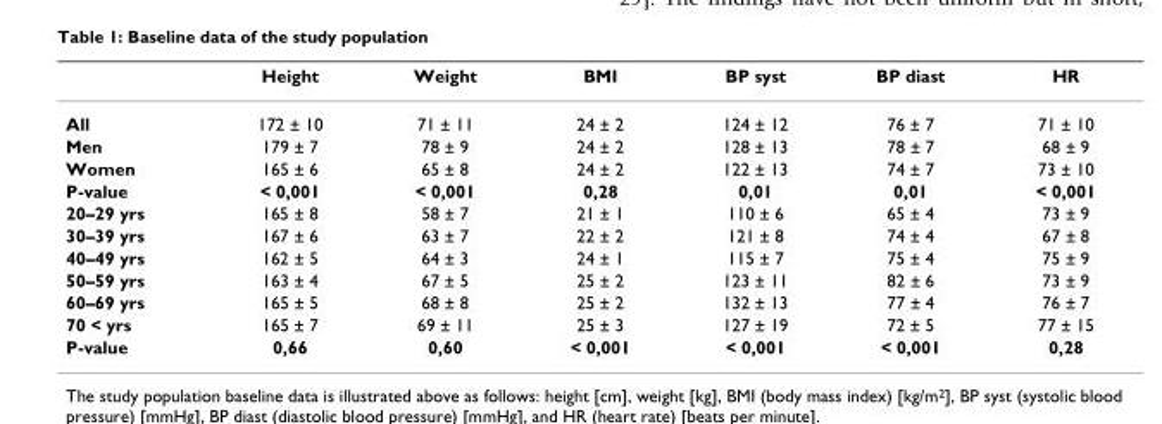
<table><thead><tr><td></td><td>Height</td><td>Weight</td><td>BMI</td><td>BP syst</td><td>BP diast</td><td>HR</td></tr></thead><tbody><tr><td>All</td><td>172 ± 10</td><td>71 ± 11</td><td>24 ± 2</td><td>124 ± 12</td><td>76 ± 7</td><td>71 ± 10</td></tr><tr><td>Men</td><td>179 ± 7</td><td>78 ± 9</td><td>24 ± 2</td><td>128 ± 13</td><td>78 ± 7</td><td>68 ± 9</td></tr><tr><td>Women</td><td>165 ± 6</td><td>65 ± 8</td><td>24 ± 2</td><td>122 ± 13</td><td>74 ± 7</td><td>73 ± 10</td></tr><tr><td>P-value</td><td>&lt; 0,001</td><td>&lt; 0,001</td><td>0,28</td><td>0,01</td><td>0,01</td><td>&lt; 0,001</td></tr><tr><td>20–29 yrs</td><td>165 ± 8</td><td>58 ± 7</td><td>21 ± 1</td><td>110 ± 6</td><td>65 ± 4</td><td>73 ± 9</td></tr><tr><td>30–39 yrs</td><td>167 ± 6</td><td>63 ± 7</td><td>22 ± 2</td><td>121 ± 8</td><td>74 ± 4</td><td>67 ± 8</td></tr><tr><td>40–49 yrs</td><td>162 ± 5</td><td>64 ± 3</td><td>24 ± 1</td><td>115 ± 7</td><td>75 ± 4</td><td>75 ± 9</td></tr><tr><td>50–59 yrs</td><td>163 ± 4</td><td>67 ± 5</td><td>25 ± 2</td><td>123 ± 11</td><td>82 ± 6</td><td>73 ± 9</td></tr><tr><td>60–69 yrs</td><td>165 ± 5</td><td>68 ± 8</td><td>25 ± 2</td><td>132 ± 13</td><td>77 ± 4</td><td>76 ± 7</td></tr><tr><td>70 &lt; yrs</td><td>165 ± 7</td><td>69 ± 11</td><td>25 ± 3</td><td>127 ± 19</td><td>72 ± 5</td><td>77 ± 15</td></tr><tr><td>P-value</td><td>0,66</td><td>0,60</td><td>&lt; 0,001</td><td>&lt; 0,001</td><td>&lt; 0,001</td><td>0,28</td></tr></tbody></table>